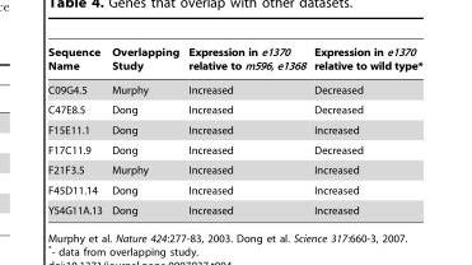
<table><thead><tr><td>Sequence Name</td><td>Overlapping Study</td><td>Expression in e1370 relative to m596, e1368</td><td>Expression in e1370 relative to wild type*</td></tr></thead><tbody><tr><td>C09G4.5</td><td>Murphy</td><td>Increased</td><td>Decreased</td></tr><tr><td>C47E8.5</td><td>Dong</td><td>Increased</td><td>Decreased</td></tr><tr><td>F15E11.1</td><td>Dong</td><td>Increased</td><td>Increased</td></tr><tr><td>F17C11.9</td><td>Dong</td><td>Increased</td><td>Decreased</td></tr><tr><td>F21F3.5</td><td>Murphy</td><td>Increased</td><td>Increased</td></tr><tr><td>F45D11.14</td><td>Dong</td><td>Increased</td><td>Increased</td></tr><tr><td>Y54G11A.13</td><td>Dong</td><td>Increased</td><td>Increased</td></tr></tbody></table>